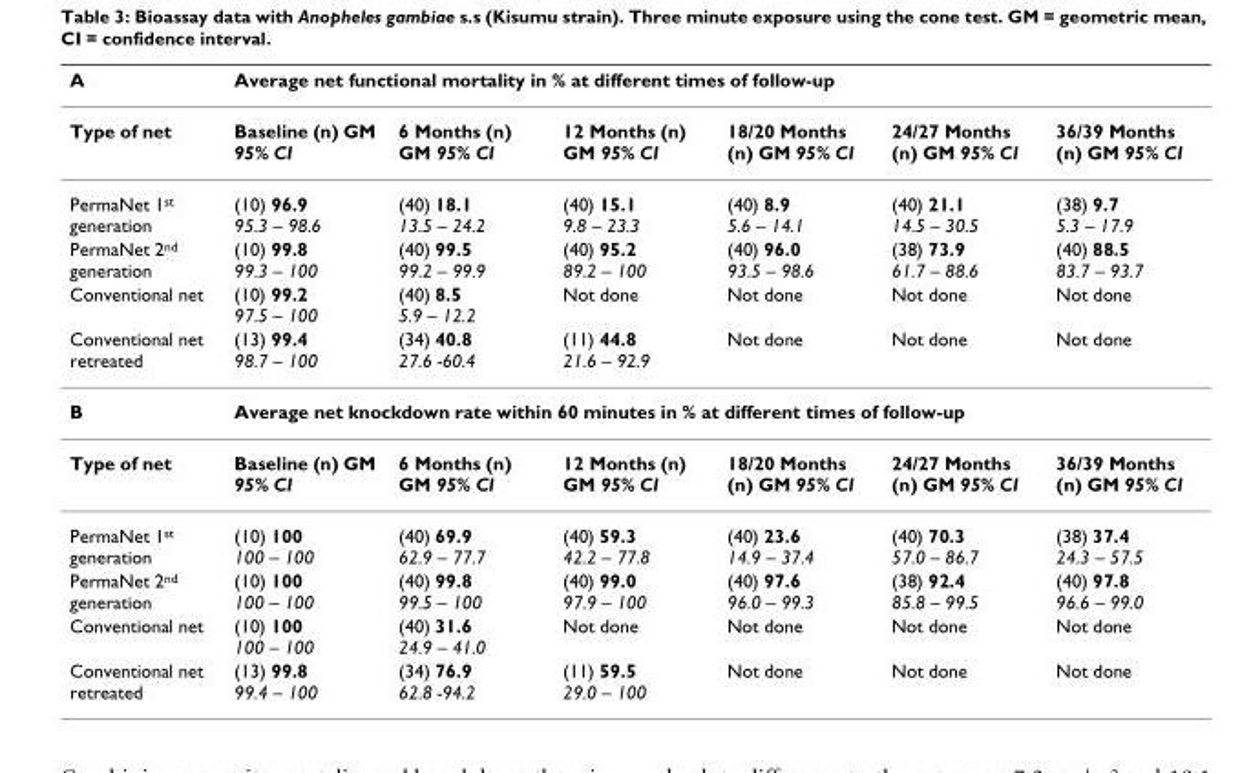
<table><thead><tr><td rowspan="2">A Type of net</td><td colspan="6">Average net functional mortality in % at different times of follow-up</td></tr><tr><td>Baseline (n) GM 95% CI</td><td>6 Months (n) GM 95% CI</td><td>12 Months (n) GM 95% CI</td><td>18/20 Months (n) GM 95% CI</td><td>24/27 Months (n) GM 95% CI</td><td>36/39 Months (n) GM 95% CI</td></tr></thead><tbody><tr><td>PermaNet 1<sup>st</sup> generation</td><td>(10) 96.9 95.3 – 98.6</td><td>(40) 18.1 13.5 – 24.2</td><td>(40) 15.1 9.8 – 23.3</td><td>(40) 8.9 5.6 – 14.1</td><td>(40) 21.1 14.5 – 30.5</td><td>(38) 9.7 5.3 – 17.9</td></tr><tr><td>PermaNet 2<sup>nd</sup> generation</td><td>(10) 99.8 99.3 – 100</td><td>(40) 99.5 99.2 – 99.9</td><td>(40) 95.2 89.2 – 100</td><td>(40) 96.0 93.5 – 98.6</td><td>(38) 73.9 61.7 – 88.6</td><td>(40) 88.5 83.7 – 93.7</td></tr><tr><td>Conventional net</td><td>(10) 99.2 97.5 – 100</td><td>(40) 8.5 5.9 – 12.2</td><td>Not done</td><td>Not done</td><td>Not done</td><td>Not done</td></tr><tr><td>Conventional net retreated</td><td>(13) 99.4 98.7 – 100</td><td>(34) 40.8 27.6 -60.4</td><td>(11) 44.8 21.6 – 92.9</td><td>Not done</td><td>Not done</td><td>Not done</td></tr><tr><td>B</td><td colspan="6">Average net knockdown rate within 60 minutes in % at different times of follow-up</td></tr><tr><td>Type of net</td><td>Baseline (n) GM 95% CI</td><td>6 Months (n) GM 95% CI</td><td>12 Months (n) GM 95% CI</td><td>18/20 Months (n) GM 95% CI</td><td>24/27 Months (n) GM 95% CI</td><td>36/39 Months (n) GM 95% CI</td></tr><tr><td>PermaNet 1<sup>st</sup> generation</td><td>(10) 100 100 – 100</td><td>(40) 69.9 62.9 – 77.7</td><td>(40) 59.3 42.2 – 77.8</td><td>(40) 23.6 14.9 – 37.4</td><td>(40) 70.3 57.0 – 86.7</td><td>(38) 37.4 24.3 – 57.5</td></tr><tr><td>PermaNet 2<sup>nd</sup> generation</td><td>(10) 100 100 – 100</td><td>(40) 99.8 99.5 – 100</td><td>(40) 99.0 97.9 – 100</td><td>(40) 97.6 96.0 – 99.3</td><td>(38) 92.4 85.8 – 99.5</td><td>(40) 97.8 96.6 – 99.0</td></tr><tr><td>Conventional net</td><td>(10) 100 100 – 100</td><td>(40) 31.6 24.9 – 41.0</td><td>Not done</td><td>Not done</td><td>Not done</td><td>Not done</td></tr><tr><td>Conventional net retreated</td><td>(13) 99.8 99.4 – 100</td><td>(34) 76.9 62.8 -94.2</td><td>(11) 59.5 29.0 – 100</td><td>Not done</td><td>Not done</td><td>Not done</td></tr></tbody></table>